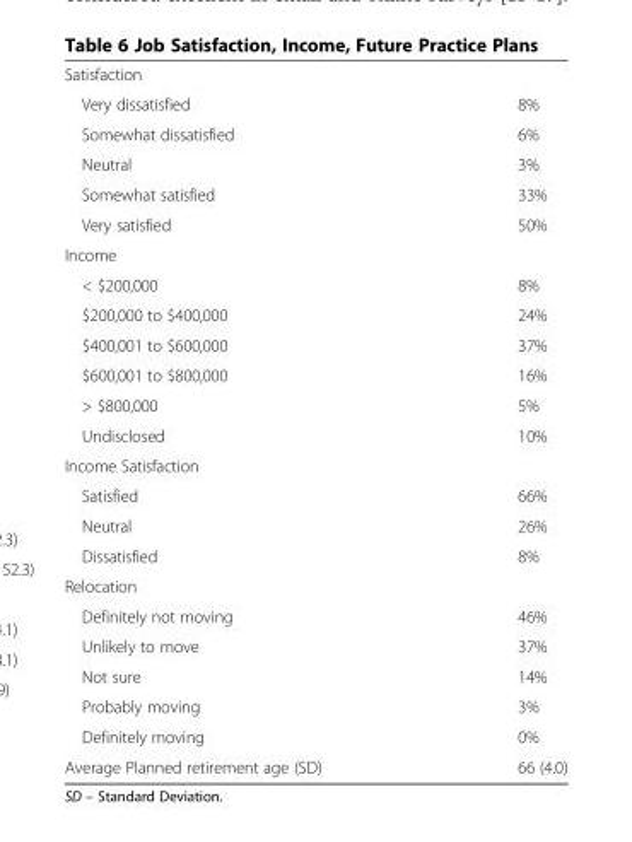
<table><tbody><tr><td colspan="2">Satisfaction</td></tr><tr><td>Very dissatisfied</td><td>8%</td></tr><tr><td>Somewhat dissatisfied</td><td>6%</td></tr><tr><td>Neutral</td><td>3%</td></tr><tr><td>Somewhat satisfied</td><td>33%</td></tr><tr><td>Very satisfied</td><td>50%</td></tr><tr><td colspan="2">Income</td></tr><tr><td>&lt; $200,000</td><td>8%</td></tr><tr><td>$200,000 to $400,000</td><td>24%</td></tr><tr><td>$400,001 to $600,000</td><td>37%</td></tr><tr><td>$600,001 to $800,000</td><td>16%</td></tr><tr><td>&gt; $800,000</td><td>5%</td></tr><tr><td>Undisclosed</td><td>10%</td></tr><tr><td colspan="2">Income Satisfaction</td></tr><tr><td>Satisfied</td><td>66%</td></tr><tr><td>Neutral</td><td>26%</td></tr><tr><td>Dissatisfied</td><td>8%</td></tr><tr><td colspan="2">Relocation</td></tr><tr><td>Definitely not moving</td><td>46%</td></tr><tr><td>Unlikely to move</td><td>37%</td></tr><tr><td>Not sure</td><td>14%</td></tr><tr><td>Probably moving</td><td>3%</td></tr><tr><td>Definitely moving</td><td>0%</td></tr><tr><td>Average Planned retirement age (SD)</td><td>66 (4.0)</td></tr></tbody></table>